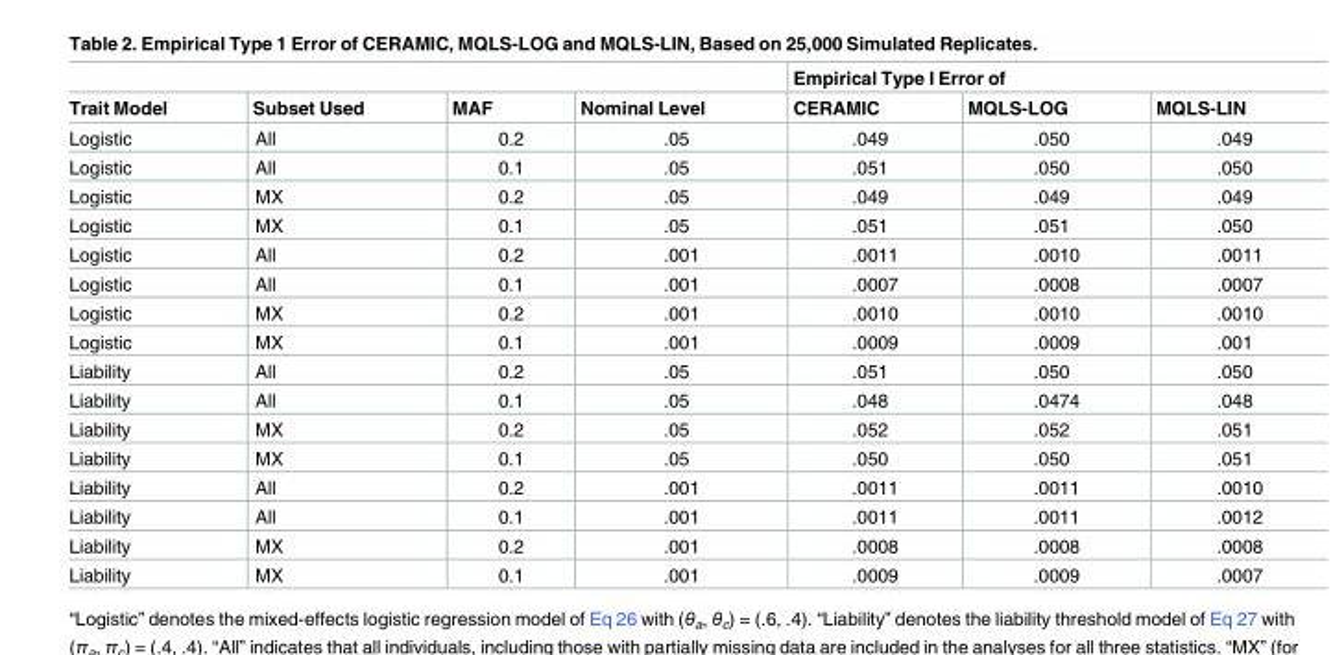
<table><thead><tr><td rowspan="2">Trait Model</td><td rowspan="2">Subset Used</td><td rowspan="2">MAF</td><td rowspan="2">Nominal Level</td><td colspan="3">Empirical Type I Error of</td></tr><tr><td>CERAMIC</td><td>MQLS-LOG</td><td>MQLS-LIN</td></tr></thead><tbody><tr><td>Logistic</td><td>All</td><td>0.2</td><td>.05</td><td>.049</td><td>.050</td><td>.049</td></tr><tr><td>Logistic</td><td>All</td><td>0.1</td><td>.05</td><td>.051</td><td>.050</td><td>.050</td></tr><tr><td>Logistic</td><td>MX</td><td>0.2</td><td>.05</td><td>.049</td><td>.049</td><td>.049</td></tr><tr><td>Logistic</td><td>MX</td><td>0.1</td><td>.05</td><td>.051</td><td>.051</td><td>.050</td></tr><tr><td>Logistic</td><td>All</td><td>0.2</td><td>.001</td><td>.0011</td><td>.0010</td><td>.0011</td></tr><tr><td>Logistic</td><td>All</td><td>0.1</td><td>.001</td><td>.0007</td><td>.0008</td><td>.0007</td></tr><tr><td>Logistic</td><td>MX</td><td>0.2</td><td>.001</td><td>.0010</td><td>.0010</td><td>.0010</td></tr><tr><td>Logistic</td><td>MX</td><td>0.1</td><td>.001</td><td>.0009</td><td>.0009</td><td>.001</td></tr><tr><td>Liability</td><td>All</td><td>0.2</td><td>.05</td><td>.051</td><td>.050</td><td>.050</td></tr><tr><td>Liability</td><td>All</td><td>0.1</td><td>.05</td><td>.048</td><td>.0474</td><td>.048</td></tr><tr><td>Liability</td><td>MX</td><td>0.2</td><td>.05</td><td>.052</td><td>.052</td><td>.051</td></tr><tr><td>Liability</td><td>MX</td><td>0.1</td><td>.05</td><td>.050</td><td>.050</td><td>.051</td></tr><tr><td>Liability</td><td>All</td><td>0.2</td><td>.001</td><td>.0011</td><td>.0011</td><td>.0010</td></tr><tr><td>Liability</td><td>All</td><td>0.1</td><td>.001</td><td>.0011</td><td>.0011</td><td>.0012</td></tr><tr><td>Liability</td><td>MX</td><td>0.2</td><td>.001</td><td>.0008</td><td>.0008</td><td>.0008</td></tr><tr><td>Liability</td><td>MX</td><td>0.1</td><td>.001</td><td>.0009</td><td>.0009</td><td>.0007</td></tr></tbody></table>